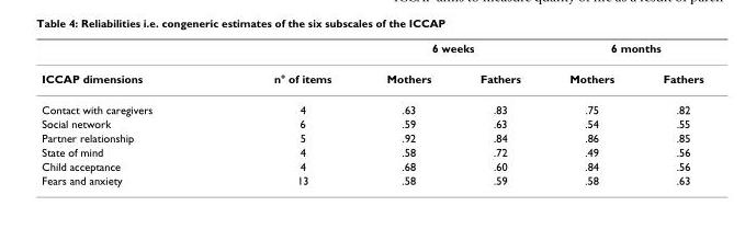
<table><thead><tr><td rowspan="2">ICCAP dimensions</td><td rowspan="2">n° of items</td><td colspan="2">6 weeks</td><td colspan="2">6 months</td></tr><tr><td>Mothers</td><td>Fathers</td><td>Mothers</td><td>Fathers</td></tr></thead><tbody><tr><td>Contact with caregivers</td><td>4</td><td>.63</td><td>.83</td><td>.75</td><td>.82</td></tr><tr><td>Social network</td><td>6</td><td>.59</td><td>.63</td><td>.54</td><td>.55</td></tr><tr><td>Partner relationship</td><td>5</td><td>.92</td><td>.84</td><td>.86</td><td>.85</td></tr><tr><td>State of mind</td><td>4</td><td>.58</td><td>.72</td><td>.49</td><td>.56</td></tr><tr><td>Child acceptance</td><td>4</td><td>.68</td><td>.60</td><td>.84</td><td>.56</td></tr><tr><td>Fears and anxiety</td><td>13</td><td>.58</td><td>.59</td><td>.58</td><td>.63</td></tr></tbody></table>